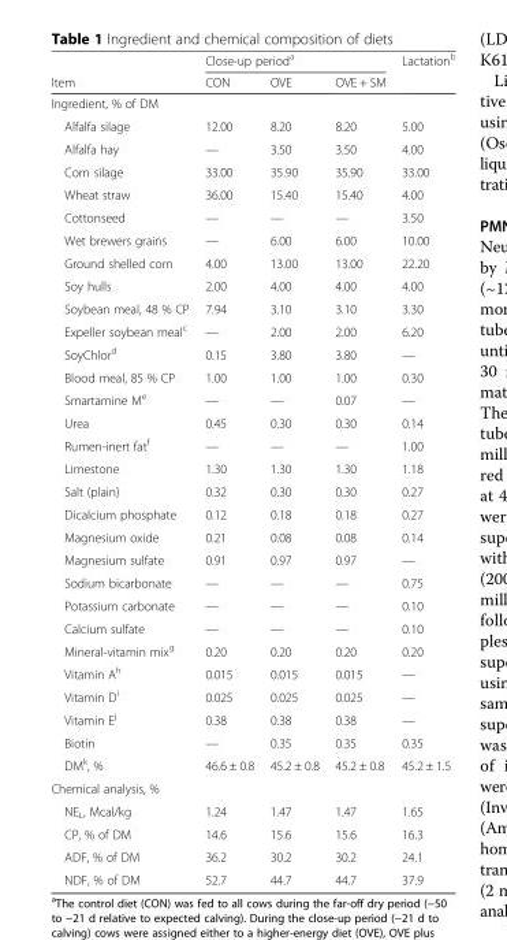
<table><thead><tr><td rowspan="2">Item</td><td colspan="3">Close-up period<sup>a</sup></td><td rowspan="2">Lactation<sup>b</sup></td></tr><tr><td>CON</td><td>OVE</td><td>OVE + SM</td></tr></thead><tbody><tr><td colspan="5">Ingredient, % of DM</td></tr><tr><td>Alfalfa silage</td><td>12.00</td><td>8.20</td><td>8.20</td><td>5.00</td></tr><tr><td>Alfalfa hay</td><td>—</td><td>3.50</td><td>3.50</td><td>4.00</td></tr><tr><td>Corn silage</td><td>33.00</td><td>35.90</td><td>35.90</td><td>33.00</td></tr><tr><td>Wheat straw</td><td>36.00</td><td>15.40</td><td>15.40</td><td>4.00</td></tr><tr><td>Cottonseed</td><td>—</td><td>—</td><td>—</td><td>3.50</td></tr><tr><td>Wet brewers grains</td><td>—</td><td>6.00</td><td>6.00</td><td>10.00</td></tr><tr><td>Ground shelled corn</td><td>4.00</td><td>13.00</td><td>13.00</td><td>22.20</td></tr><tr><td>Soy hulls</td><td>2.00</td><td>4.00</td><td>4.00</td><td>4.00</td></tr><tr><td>Soybean meal, 48 % CP</td><td>7.94</td><td>3.10</td><td>3.10</td><td>3.30</td></tr><tr><td>Expeller soybean meal<sup>c</sup></td><td>—</td><td>2.00</td><td>2.00</td><td>6.20</td></tr><tr><td>SoyChlor<sup>d</sup></td><td>0.15</td><td>3.80</td><td>3.80</td><td>—</td></tr><tr><td>Blood meal, 85 % CP</td><td>1.00</td><td>1.00</td><td>1.00</td><td>0.30</td></tr><tr><td>Smartamine M<sup>e</sup></td><td>—</td><td>—</td><td>0.07</td><td>—</td></tr><tr><td>Urea</td><td>0.45</td><td>0.30</td><td>0.30</td><td>0.14</td></tr><tr><td>Rumen-inert fat<sup>f</sup></td><td>—</td><td>—</td><td>—</td><td>1.00</td></tr><tr><td>Limestone</td><td>1.30</td><td>1.30</td><td>1.30</td><td>1.18</td></tr><tr><td>Salt (plain)</td><td>0.32</td><td>0.30</td><td>0.30</td><td>0.27</td></tr><tr><td>Dicalcium phosphate</td><td>0.12</td><td>0.18</td><td>0.18</td><td>0.27</td></tr><tr><td>Magnesium oxide</td><td>0.21</td><td>0.08</td><td>0.08</td><td>0.14</td></tr><tr><td>Magnesium sulfate</td><td>0.91</td><td>0.97</td><td>0.97</td><td>—</td></tr><tr><td>Sodium bicarbonate</td><td>—</td><td>—</td><td>—</td><td>0.75</td></tr><tr><td>Potassium carbonate</td><td>—</td><td>—</td><td>—</td><td>0.10</td></tr><tr><td>Calcium sulfate</td><td>—</td><td>—</td><td>—</td><td>0.10</td></tr><tr><td>Mineral-vitamin mix<sup>g</sup></td><td>0.20</td><td>0.20</td><td>0.20</td><td>0.20</td></tr><tr><td>Vitamin A<sup>h</sup></td><td>0.015</td><td>0.015</td><td>0.015</td><td>—</td></tr><tr><td>Vitamin D<sup>i</sup></td><td>0.025</td><td>0.025</td><td>0.025</td><td>—</td></tr><tr><td>Vitamin E<sup>j</sup></td><td>0.38</td><td>0.38</td><td>0.38</td><td>—</td></tr><tr><td>Biotin</td><td>—</td><td>0.35</td><td>0.35</td><td>0.35</td></tr><tr><td>DM<sup>k</sup>, %</td><td>46.6 ± 0.8</td><td>45.2 ± 0.8</td><td>45.2 ± 0.8</td><td>45.2 ± 1.5</td></tr><tr><td colspan="5">Chemical analysis, %</td></tr><tr><td>NE<sub>L</sub>, Mcal/kg</td><td>1.24</td><td>1.47</td><td>1.47</td><td>1.65</td></tr><tr><td>CP, % of DM</td><td>14.6</td><td>15.6</td><td>15.6</td><td>16.3</td></tr><tr><td>ADF, % of DM</td><td>36.2</td><td>30.2</td><td>30.2</td><td>24.1</td></tr><tr><td>NDF, % of DM</td><td>52.7</td><td>44.7</td><td>44.7</td><td>37.9</td></tr></tbody></table>